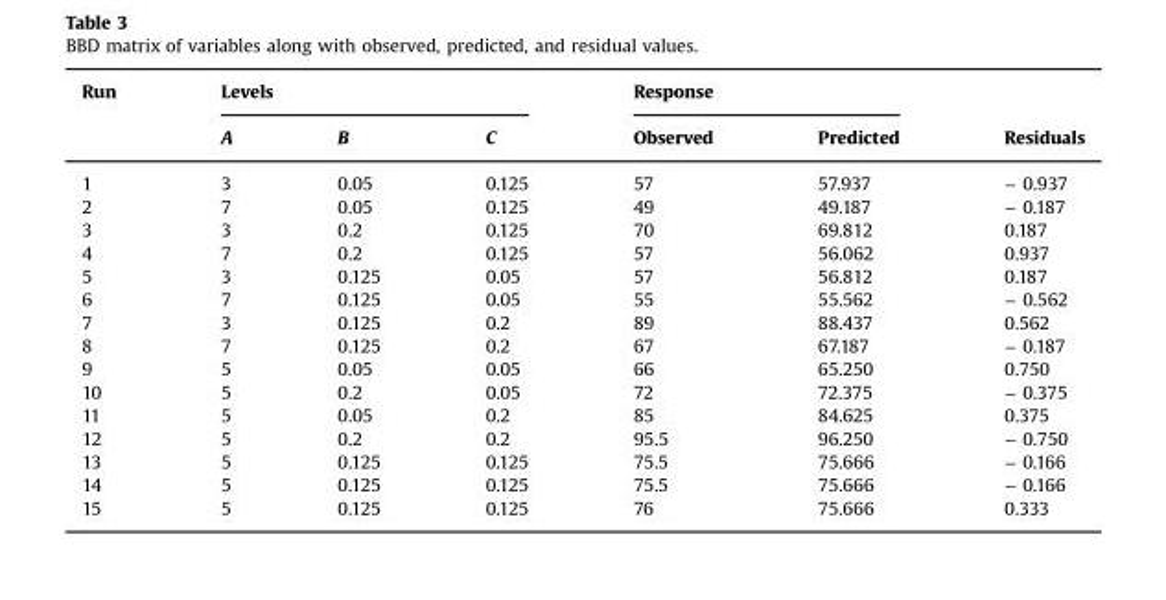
<table><thead><tr><td rowspan="2">Run</td><td colspan="3">Levels</td><td colspan="2">Response</td><td rowspan="2">Residuals</td></tr><tr><td>A</td><td>B</td><td>C</td><td>Observed</td><td>Predicted</td></tr></thead><tbody><tr><td>1</td><td>3</td><td>0.05</td><td>0.125</td><td>57</td><td>57.937</td><td>− 0.937</td></tr><tr><td>2</td><td>7</td><td>0.05</td><td>0.125</td><td>49</td><td>49.187</td><td>− 0.187</td></tr><tr><td>3</td><td>3</td><td>0.2</td><td>0.125</td><td>70</td><td>69.812</td><td>0.187</td></tr><tr><td>4</td><td>7</td><td>0.2</td><td>0.125</td><td>57</td><td>56.062</td><td>0.937</td></tr><tr><td>5</td><td>3</td><td>0.125</td><td>0.05</td><td>57</td><td>56.812</td><td>0.187</td></tr><tr><td>6</td><td>7</td><td>0.125</td><td>0.05</td><td>55</td><td>55.562</td><td>− 0.562</td></tr><tr><td>7</td><td>3</td><td>0.125</td><td>0.2</td><td>89</td><td>88.437</td><td>0.562</td></tr><tr><td>8</td><td>7</td><td>0.125</td><td>0.2</td><td>67</td><td>67.187</td><td>− 0.187</td></tr><tr><td>9</td><td>5</td><td>0.05</td><td>0.05</td><td>66</td><td>65.250</td><td>0.750</td></tr><tr><td>10</td><td>5</td><td>0.2</td><td>0.05</td><td>72</td><td>72.375</td><td>− 0.375</td></tr><tr><td>11</td><td>5</td><td>0.05</td><td>0.2</td><td>85</td><td>84.625</td><td>0.375</td></tr><tr><td>12</td><td>5</td><td>0.2</td><td>0.2</td><td>95.5</td><td>96.250</td><td>− 0.750</td></tr><tr><td>13</td><td>5</td><td>0.125</td><td>0.125</td><td>75.5</td><td>75.666</td><td>− 0.166</td></tr><tr><td>14</td><td>5</td><td>0.125</td><td>0.125</td><td>75.5</td><td>75.666</td><td>− 0.166</td></tr><tr><td>15</td><td>5</td><td>0.125</td><td>0.125</td><td>76</td><td>75.666</td><td>0.333</td></tr></tbody></table>